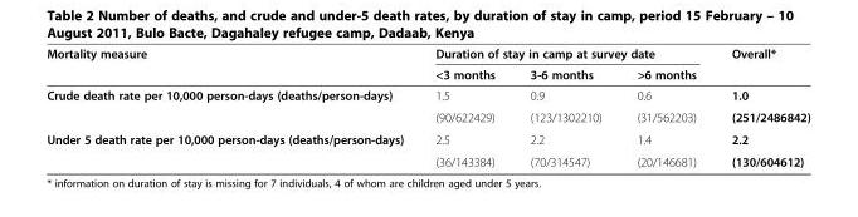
<table><thead><tr><td rowspan="2">Mortality measure</td><td colspan="3">Duration of stay in camp at survey date</td><td rowspan="2">Overall*</td></tr><tr><td>&lt;3 months</td><td>3-6 months</td><td>&gt;6 months</td></tr></thead><tbody><tr><td rowspan="2">Crude death rate per 10,000 person-days (deaths/person-days)</td><td>1.5</td><td>0.9</td><td>0.6</td><td>1.0</td></tr><tr><td>(90/622429)</td><td>(123/1302210)</td><td>(31/562203)</td><td>(251/2486842)</td></tr><tr><td rowspan="2">Under 5 death rate per 10,000 person-days (deaths/person-days)</td><td>2.5</td><td>2.2</td><td>1.4</td><td>2.2</td></tr><tr><td>(36/143384)</td><td>(70/314547)</td><td>(20/146681)</td><td>(130/604612)</td></tr></tbody></table>